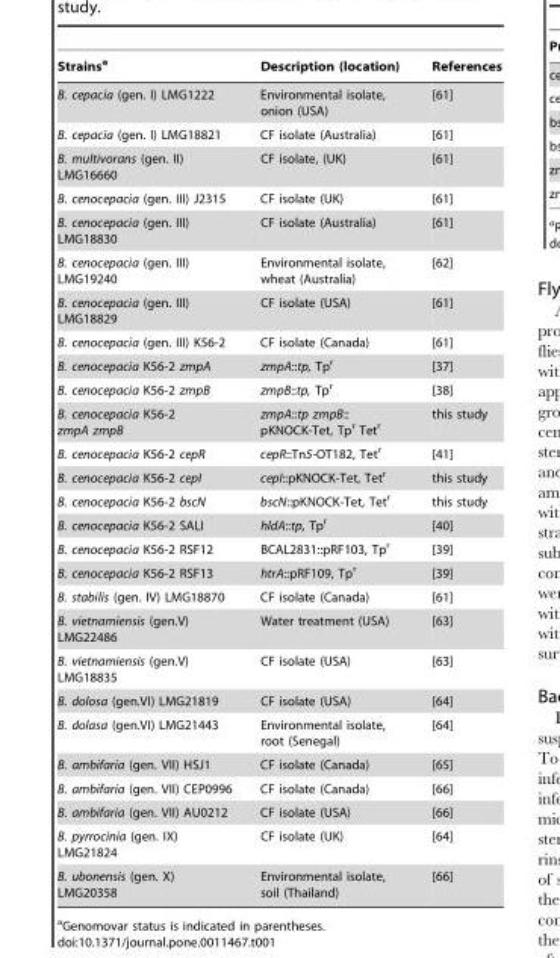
<table><thead><tr><td>Strains<sup>a</sup></td><td>Description (location)</td><td>References</td></tr></thead><tbody><tr><td>B. cepacia (gen. I) LMG1222</td><td>Environmental isolate, onion (USA)</td><td>[61]</td></tr><tr><td>B. cepacia (gen. I) LMG18821</td><td>CF isolate (Australia)</td><td>[61]</td></tr><tr><td>B. multivorans (gen. II) LMG16660</td><td>CF isolate, (UK)</td><td>[61]</td></tr><tr><td>B. cenocepacia (gen. III) J2315</td><td>CF isolate (UK)</td><td>[61]</td></tr><tr><td>B. cenocepacia (gen. III) LMG18830</td><td>CF isolate (Australia)</td><td>[61]</td></tr><tr><td>B. cenocepacia (gen. III) LMG19240</td><td>Environmental isolate, wheat (Australia)</td><td>[62]</td></tr><tr><td>B. cenocepacia (gen. III) LMG18829</td><td>CF isolate (USA)</td><td>[61]</td></tr><tr><td>B. cenocepacia (gen. III) K56-2</td><td>CF isolate (Canada)</td><td>[61]</td></tr><tr><td>B. cenocepacia K56-2 zmpA</td><td>zmpA::tp, Tp<sup>r</sup></td><td>[37]</td></tr><tr><td>B. cenocepacia K56-2 zmpB</td><td>zmpB::tp, Tp<sup>r</sup></td><td>[38]</td></tr><tr><td>B. cenocepacia K56-2 zmpA zmpB</td><td>zmpA::tp zmpB:: pKNOCK-Tet, Tp<sup>r</sup> Tet<sup>r</sup></td><td>this study</td></tr><tr><td>B. cenocepacia K56-2 cepR</td><td>cepR::Tn5-OT182, Tet<sup>r</sup></td><td>[41]</td></tr><tr><td>B. cenocepacia K56-2 cepI</td><td>cepI::pKNOCK-Tet, Tet<sup>r</sup></td><td>this study</td></tr><tr><td>B. cenocepacia K56-2 bscN</td><td>bscN::pKNOCK-Tet, Tet<sup>r</sup></td><td>this study</td></tr><tr><td>B. cenocepacia K56-2 SALI</td><td>hldA::tp, Tp<sup>r</sup></td><td>[40]</td></tr><tr><td>B. cenocepacia K56-2 RSF12</td><td>BCAL2831::pRF103, Tp<sup>r</sup></td><td>[39]</td></tr><tr><td>B. cenocepacia K56-2 RSF13</td><td>htrA::pRF109, Tp<sup>r</sup></td><td>[39]</td></tr><tr><td>B. stabilis (gen. IV) LMG18870</td><td>CF isolate (Canada)</td><td>[61]</td></tr><tr><td>B. vietnamiensis (gen.V) LMG22486</td><td>Water treatment (USA)</td><td>[63]</td></tr><tr><td>B. vietnamiensis (gen.V) LMG18835</td><td>CF isolate (USA)</td><td>[63]</td></tr><tr><td>B. dolosa (gen.VI) LMG21819</td><td>CF isolate (USA)</td><td>[64]</td></tr><tr><td>B. dolasa (gen.VI) LMG21443</td><td>Environmental isolate, root (Senegal)</td><td>[64]</td></tr><tr><td>B. ambifaria (gen. VII) HSJ1</td><td>CF isolate (Canada)</td><td>[65]</td></tr><tr><td>B. ambifaria (gen. VII) CEP0996</td><td>CF isolate (Canada)</td><td>[66]</td></tr><tr><td>B. ambifaria (gen. VII) AU0212</td><td>CF isolate (USA)</td><td>[66]</td></tr><tr><td>B. pyrrocinia (gen. IX) LMG21824</td><td>CF isolate (UK)</td><td>[64]</td></tr><tr><td>B. ubonensis (gen. X) LMG20358</td><td>Environmental isolate, soil (Thailand)</td><td>[66]</td></tr></tbody></table>